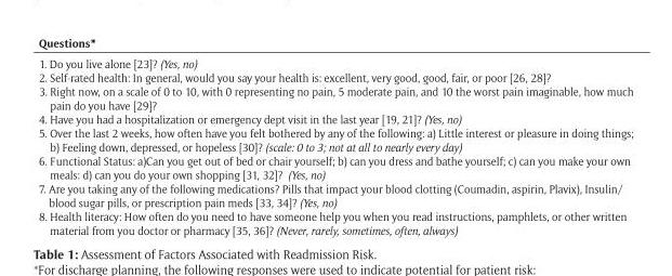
<table><thead><tr><td colspan="2">Questions*</td></tr><tr><td>1.</td><td>Do you live alone [23]? (Yes, no)</td></tr></thead><tbody><tr><td>2.</td><td>Self-rated health: In general, would you say your health is: excellent, very good, good, fair, or poor [26, 28]?</td></tr><tr><td>3.</td><td>Right now, on a scale of 0 to 10, with 0 representing no pain, 5 moderate pain, and 10 the worst pain imaginable, how much pain do you have [29]?</td></tr><tr><td>4.</td><td>Have you had a hospitalization or emergency dept visit in the last year [19, 21]? (Yes, no)</td></tr><tr><td>5.</td><td>Over the last 2 weeks, how often have you felt bothered by any of the following: a) Little interest or pleasure in doing things; b) Feeling down, depressed, or hopeless [30]? (scale: 0 to 3; not at all to nearly every day)</td></tr><tr><td>6.</td><td>Functional Status: a)Can you get out of bed or chair yourself; b) can you dress and bathe yourself; c) can you make your own meals: d) can you do your own shopping [31, 32]? (Yes, no)</td></tr><tr><td>7.</td><td>Are you taking any of the following medications? Pills that impact your blood clotting (Coumadin, aspirin, Plavix), Insulin/ blood sugar pills, or prescription pain meds [33, 34]? (Yes, no)</td></tr><tr><td>8.</td><td>Health literacy: How often do you need to have someone help you when you read instructions, pamphlets, or other written material from you doctor or pharmacy [35, 36]? (Never, rarely, sometimes, often, always)</td></tr></tbody></table>